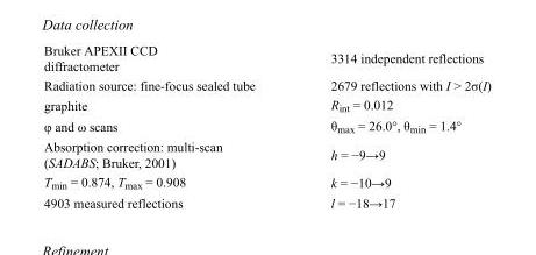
<table><tbody><tr><td>Bruker APEXII CCD diffractometer</td><td>3314 independent reflections</td></tr><tr><td>Radiation source: fine-focus sealed tube</td><td>2679 reflections with I &gt; 2σ(I)</td></tr><tr><td>graphite</td><td>R<sub>int</sub> = 0.012</td></tr><tr><td>φ and ω scans</td><td>θ<sub>max</sub> = 26.0°, θ<sub>min</sub> = 1.4°</td></tr><tr><td>Absorption correction: multi-scan (SADABS; Bruker, 2001)</td><td>h = −9→9</td></tr><tr><td>T<sub>min</sub> = 0.874, T<sub>max</sub> = 0.908</td><td>k = −10→9</td></tr><tr><td>4903 measured reflections</td><td>l = −18→17</td></tr></tbody></table>